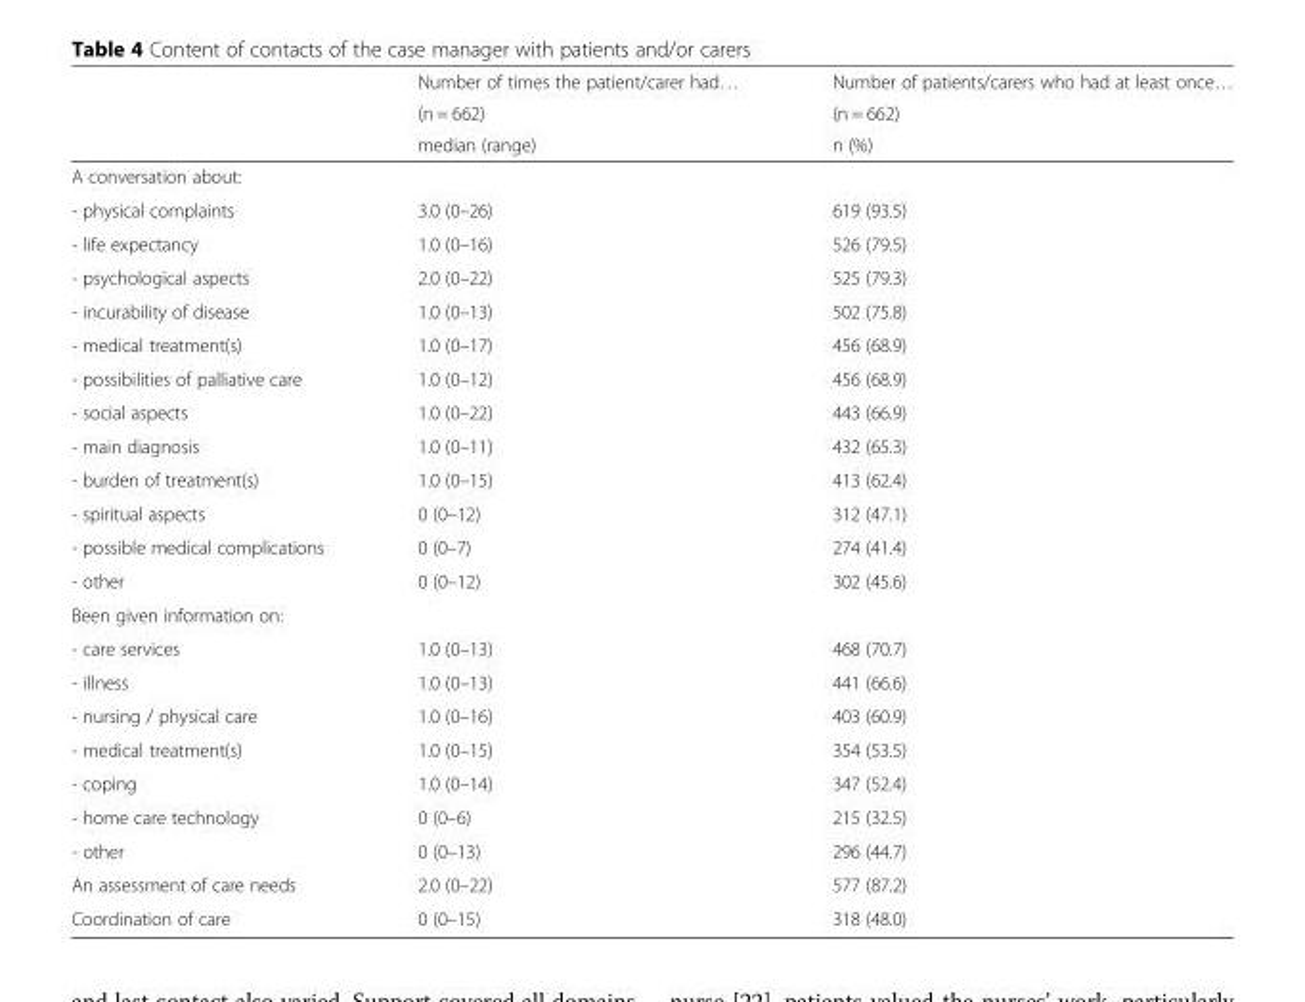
<table><thead><tr><td rowspan="3"></td><td rowspan="3">Number of times the patient/carer had… (n = 662) median (range)</td><td rowspan="3">Number of patients/carers who had at least once… (n = 662) n (%)</td></tr><tr></tr><tr></tr></thead><tbody><tr><td colspan="3">A conversation about:</td></tr><tr><td>- physical complaints</td><td>3.0 (0–26)</td><td>619 (93.5)</td></tr><tr><td>- life expectancy</td><td>1.0 (0–16)</td><td>526 (79.5)</td></tr><tr><td>- psychological aspects</td><td>2.0 (0–22)</td><td>525 (79.3)</td></tr><tr><td>- incurability of disease</td><td>1.0 (0–13)</td><td>502 (75.8)</td></tr><tr><td>- medical treatment(s)</td><td>1.0 (0–17)</td><td>456 (68.9)</td></tr><tr><td>- possibilities of palliative care</td><td>1.0 (0–12)</td><td>456 (68.9)</td></tr><tr><td>- social aspects</td><td>1.0 (0–22)</td><td>443 (66.9)</td></tr><tr><td>- main diagnosis</td><td>1.0 (0–11)</td><td>432 (65.3)</td></tr><tr><td>- burden of treatment(s)</td><td>1.0 (0–15)</td><td>413 (62.4)</td></tr><tr><td>- spiritual aspects</td><td>0 (0–12)</td><td>312 (47.1)</td></tr><tr><td>- possible medical complications</td><td>0 (0–7)</td><td>274 (41.4)</td></tr><tr><td>- other</td><td>0 (0–12)</td><td>302 (45.6)</td></tr><tr><td colspan="3">Been given information on:</td></tr><tr><td>- care services</td><td>1.0 (0–13)</td><td>468 (70.7)</td></tr><tr><td>- illness</td><td>1.0 (0–13)</td><td>441 (66.6)</td></tr><tr><td>- nursing / physical care</td><td>1.0 (0–16)</td><td>403 (60.9)</td></tr><tr><td>- medical treatment(s)</td><td>1.0 (0–15)</td><td>354 (53.5)</td></tr><tr><td>- coping</td><td>1.0 (0–14)</td><td>347 (52.4)</td></tr><tr><td>- home care technology</td><td>0 (0–6)</td><td>215 (32.5)</td></tr><tr><td>- other</td><td>0 (0–13)</td><td>296 (44.7)</td></tr><tr><td>An assessment of care needs</td><td>2.0 (0–22)</td><td>577 (87.2)</td></tr><tr><td>Coordination of care</td><td>0 (0–15)</td><td>318 (48.0)</td></tr></tbody></table>